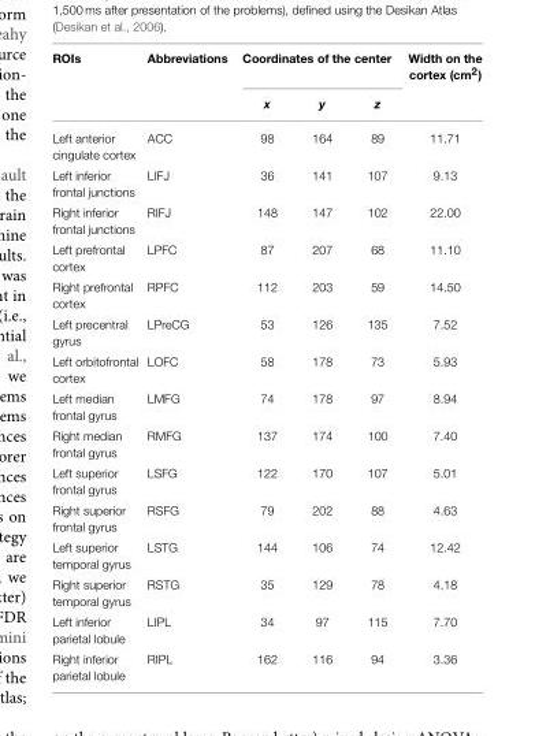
<table><thead><tr><td rowspan="2">ROIs</td><td rowspan="2">Abbreviations</td><td colspan="3">Coordinates of the center</td><td rowspan="2">Width on the cortex (cm<sup>2</sup>)</td></tr><tr><td>x</td><td>y</td><td>z</td></tr></thead><tbody><tr><td>Left anterior cingulate cortex</td><td>ACC</td><td>98</td><td>164</td><td>89</td><td>11.71</td></tr><tr><td>Left inferior frontal junctions</td><td>LIFJ</td><td>36</td><td>141</td><td>107</td><td>9.13</td></tr><tr><td>Right inferior frontal junctions</td><td>RIFJ</td><td>148</td><td>147</td><td>102</td><td>22.00</td></tr><tr><td>Left prefrontal cortex</td><td>LPFC</td><td>87</td><td>207</td><td>68</td><td>11.10</td></tr><tr><td>Right prefrontal cortex</td><td>RPFC</td><td>112</td><td>203</td><td>59</td><td>14.50</td></tr><tr><td>Left precentral gyrus</td><td>LPreCG</td><td>53</td><td>126</td><td>135</td><td>7.52</td></tr><tr><td>Left orbitofrontal cortex</td><td>LOFC</td><td>58</td><td>178</td><td>73</td><td>5.93</td></tr><tr><td>Left median frontal gyrus</td><td>LMFG</td><td>74</td><td>178</td><td>97</td><td>8.94</td></tr><tr><td>Right median frontal gyrus</td><td>RMFG</td><td>137</td><td>174</td><td>100</td><td>7.40</td></tr><tr><td>Left superior frontal gyrus</td><td>LSFG</td><td>122</td><td>170</td><td>107</td><td>5.01</td></tr><tr><td>Right superior frontal gyrus</td><td>RSFG</td><td>79</td><td>202</td><td>88</td><td>4.63</td></tr><tr><td>Left superior temporal gyrus</td><td>LSTG</td><td>144</td><td>106</td><td>74</td><td>12.42</td></tr><tr><td>Right superior temporal gyrus</td><td>RSTG</td><td>35</td><td>129</td><td>78</td><td>4.18</td></tr><tr><td>Left inferior parietal lobule</td><td>LIPL</td><td>34</td><td>97</td><td>115</td><td>7.70</td></tr><tr><td>Right inferior parietal lobule</td><td>RIPL</td><td>162</td><td>116</td><td>94</td><td>3.36</td></tr></tbody></table>